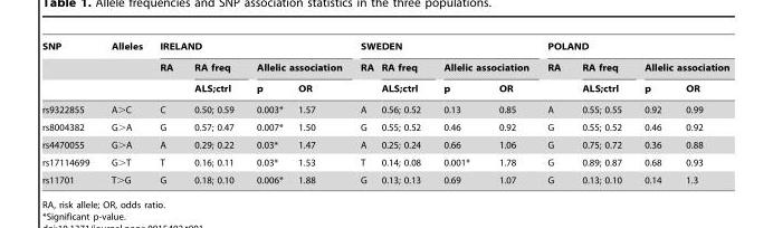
<table><thead><tr><td rowspan="3">SNP</td><td rowspan="3">Alleles</td><td colspan="4">IRELAND</td><td colspan="4">SWEDEN</td><td colspan="4">POLAND</td></tr><tr><td rowspan="2">RA</td><td rowspan="2">RA freq ALS;ctrl</td><td colspan="2">Allelic association</td><td rowspan="2">RA</td><td rowspan="2">RA freq ALS;ctrl</td><td colspan="2">Allelic association</td><td rowspan="2">RA</td><td rowspan="2">RA freq ALS;ctrl</td><td colspan="2">Allelic association</td></tr><tr><td>p</td><td>OR</td><td>p</td><td>OR</td><td>p</td><td>OR</td></tr></thead><tbody><tr><td>rs9322855</td><td>A&gt;C</td><td>C</td><td>0.50; 0.59</td><td>0.003*</td><td>1.57</td><td>A</td><td>0.56; 0.52</td><td>0.13</td><td>0.85</td><td>A</td><td>0.55; 0.55</td><td>0.92</td><td>0.99</td></tr><tr><td>rs8004382</td><td>G&gt;A</td><td>G</td><td>0.57; 0.47</td><td>0.007*</td><td>1.50</td><td>G</td><td>0.55; 0.52</td><td>0.46</td><td>0.92</td><td>G</td><td>0.55; 0.52</td><td>0.46</td><td>0.92</td></tr><tr><td>rs4470055</td><td>G&gt;A</td><td>A</td><td>0.29; 0.22</td><td>0.03*</td><td>1.47</td><td>A</td><td>0.25; 0.24</td><td>0.66</td><td>1.06</td><td>G</td><td>0.75; 0.72</td><td>0.36</td><td>0.88</td></tr><tr><td>rs17114699</td><td>G&gt;T</td><td>T</td><td>0.16; 0.11</td><td>0.03*</td><td>1.53</td><td>T</td><td>0.14; 0.08</td><td>0.001*</td><td>1.78</td><td>G</td><td>0.89; 0.87</td><td>0.68</td><td>0.93</td></tr><tr><td>rs11701</td><td>T&gt;G</td><td>G</td><td>0.18; 0.10</td><td>0.006*</td><td>1.88</td><td>G</td><td>0.13; 0.13</td><td>0.69</td><td>1.07</td><td>G</td><td>0.13; 0.10</td><td>0.14</td><td>1.3</td></tr></tbody></table>